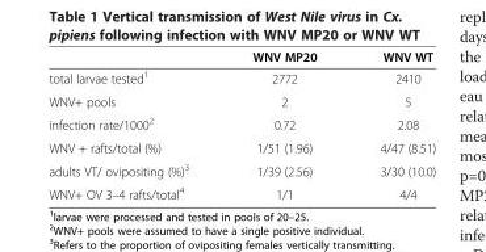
<table><thead><tr><td></td><td>WNV MP20</td><td>WNV WT</td></tr></thead><tbody><tr><td>total larvae tested<sup>1</sup></td><td>2772</td><td>2410</td></tr><tr><td>WNV+ pools</td><td>2</td><td>5</td></tr><tr><td>infection rate/1000<sup>2</sup></td><td>0.72</td><td>2.08</td></tr><tr><td>WNV + rafts/total (%)</td><td>1/51 (1.96)</td><td>4/47 (8.51)</td></tr><tr><td>adults VT/ ovipositing (%)<sup>3</sup></td><td>1/39 (2.56)</td><td>3/30 (10.0)</td></tr><tr><td>WNV+ OV 3–4 rafts/total<sup>4</sup></td><td>1/1</td><td>4/4</td></tr></tbody></table>